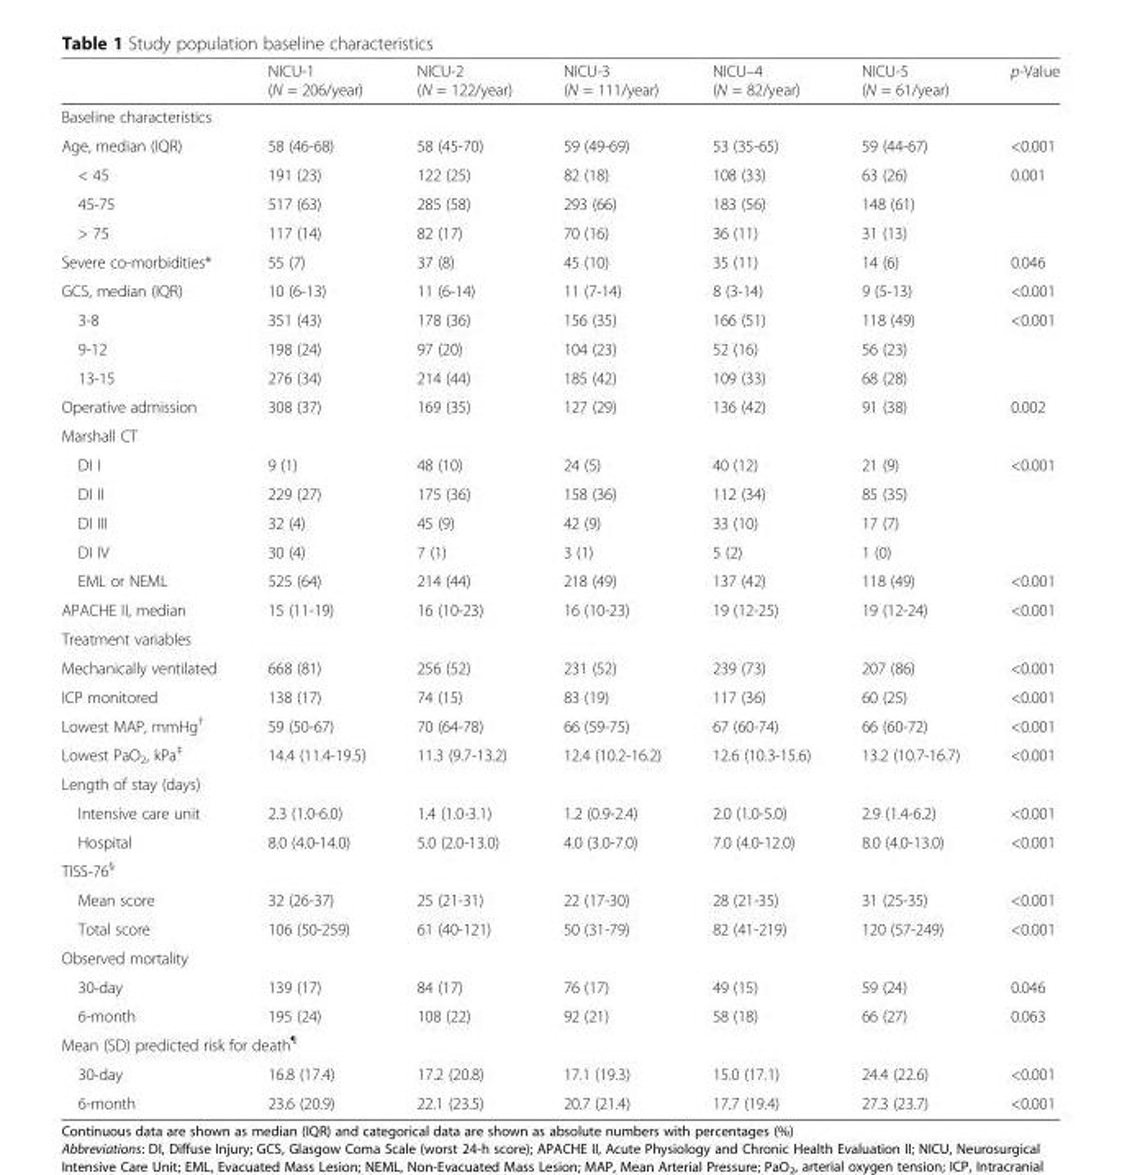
<table><thead><tr><td></td><td>NICU-1 (N = 206/year)</td><td>NICU-2 (N = 122/year)</td><td>NICU-3 (N = 111/year)</td><td>NICU–4 (N = 82/year)</td><td>NICU-5 (N = 61/year)</td><td>p-Value</td></tr></thead><tbody><tr><td colspan="7">Baseline characteristics</td></tr><tr><td>Age, median (IQR)</td><td>58 (46-68)</td><td>58 (45-70)</td><td>59 (49-69)</td><td>53 (35-65)</td><td>59 (44-67)</td><td>&lt;0.001</td></tr><tr><td>&lt; 45</td><td>191 (23)</td><td>122 (25)</td><td>82 (18)</td><td>108 (33)</td><td>63 (26)</td><td>0.001</td></tr><tr><td>45-75</td><td>517 (63)</td><td>285 (58)</td><td>293 (66)</td><td>183 (56)</td><td>148 (61)</td><td></td></tr><tr><td>&gt; 75</td><td>117 (14)</td><td>82 (17)</td><td>70 (16)</td><td>36 (11)</td><td>31 (13)</td><td></td></tr><tr><td>Severe co-morbidities*</td><td>55 (7)</td><td>37 (8)</td><td>45 (10)</td><td>35 (11)</td><td>14 (6)</td><td>0.046</td></tr><tr><td>GCS, median (IQR)</td><td>10 (6-13)</td><td>11 (6-14)</td><td>11 (7-14)</td><td>8 (3-14)</td><td>9 (5-13)</td><td>&lt;0.001</td></tr><tr><td>3-8</td><td>351 (43)</td><td>178 (36)</td><td>156 (35)</td><td>166 (51)</td><td>118 (49)</td><td>&lt;0.001</td></tr><tr><td>9-12</td><td>198 (24)</td><td>97 (20)</td><td>104 (23)</td><td>52 (16)</td><td>56 (23)</td><td></td></tr><tr><td>13-15</td><td>276 (34)</td><td>214 (44)</td><td>185 (42)</td><td>109 (33)</td><td>68 (28)</td><td></td></tr><tr><td>Operative admission</td><td>308 (37)</td><td>169 (35)</td><td>127 (29)</td><td>136 (42)</td><td>91 (38)</td><td>0.002</td></tr><tr><td colspan="7">Marshall CT</td></tr><tr><td>DI I</td><td>9 (1)</td><td>48 (10)</td><td>24 (5)</td><td>40 (12)</td><td>21 (9)</td><td>&lt;0.001</td></tr><tr><td>DI II</td><td>229 (27)</td><td>175 (36)</td><td>158 (36)</td><td>112 (34)</td><td>85 (35)</td><td></td></tr><tr><td>DI III</td><td>32 (4)</td><td>45 (9)</td><td>42 (9)</td><td>33 (10)</td><td>17 (7)</td><td></td></tr><tr><td>DI IV</td><td>30 (4)</td><td>7 (1)</td><td>3 (1)</td><td>5 (2)</td><td>1 (0)</td><td></td></tr><tr><td>EML or NEML</td><td>525 (64)</td><td>214 (44)</td><td>218 (49)</td><td>137 (42)</td><td>118 (49)</td><td>&lt;0.001</td></tr><tr><td>APACHE II, median</td><td>15 (11-19)</td><td>16 (10-23)</td><td>16 (10-23)</td><td>19 (12-25)</td><td>19 (12-24)</td><td>&lt;0.001</td></tr><tr><td colspan="7">Treatment variables</td></tr><tr><td>Mechanically ventilated</td><td>668 (81)</td><td>256 (52)</td><td>231 (52)</td><td>239 (73)</td><td>207 (86)</td><td>&lt;0.001</td></tr><tr><td>ICP monitored</td><td>138 (17)</td><td>74 (15)</td><td>83 (19)</td><td>117 (36)</td><td>60 (25)</td><td>&lt;0.001</td></tr><tr><td>Lowest MAP, mmHg<sup>†</sup></td><td>59 (50-67)</td><td>70 (64-78)</td><td>66 (59-75)</td><td>67 (60-74)</td><td>66 (60-72)</td><td>&lt;0.001</td></tr><tr><td>Lowest PaO<sub>2</sub>, kPa<sup>‡</sup></td><td>14.4 (11.4-19.5)</td><td>11.3 (9.7-13.2)</td><td>12.4 (10.2-16.2)</td><td>12.6 (10.3-15.6)</td><td>13.2 (10.7-16.7)</td><td>&lt;0.001</td></tr><tr><td colspan="7">Length of stay (days)</td></tr><tr><td>Intensive care unit</td><td>2.3 (1.0-6.0)</td><td>1.4 (1.0-3.1)</td><td>1.2 (0.9-2.4)</td><td>2.0 (1.0-5.0)</td><td>2.9 (1.4-6.2)</td><td>&lt;0.001</td></tr><tr><td>Hospital</td><td>8.0 (4.0-14.0)</td><td>5.0 (2.0-13.0)</td><td>4.0 (3.0-7.0)</td><td>7.0 (4.0-12.0)</td><td>8.0 (4.0-13.0)</td><td>&lt;0.001</td></tr><tr><td colspan="7">TISS-76<sup>§</sup></td></tr><tr><td>Mean score</td><td>32 (26-37)</td><td>25 (21-31)</td><td>22 (17-30)</td><td>28 (21-35)</td><td>31 (25-35)</td><td>&lt;0.001</td></tr><tr><td>Total score</td><td>106 (50-259)</td><td>61 (40-121)</td><td>50 (31-79)</td><td>82 (41-219)</td><td>120 (57-249)</td><td>&lt;0.001</td></tr><tr><td colspan="7">Observed mortality</td></tr><tr><td>30-day</td><td>139 (17)</td><td>84 (17)</td><td>76 (17)</td><td>49 (15)</td><td>59 (24)</td><td>0.046</td></tr><tr><td>6-month</td><td>195 (24)</td><td>108 (22)</td><td>92 (21)</td><td>58 (18)</td><td>66 (27)</td><td>0.063</td></tr><tr><td colspan="7">Mean (SD) predicted risk for death<sup>¶</sup></td></tr><tr><td>30-day</td><td>16.8 (17.4)</td><td>17.2 (20.8)</td><td>17.1 (19.3)</td><td>15.0 (17.1)</td><td>24.4 (22.6)</td><td>&lt;0.001</td></tr><tr><td>6-month</td><td>23.6 (20.9)</td><td>22.1 (23.5)</td><td>20.7 (21.4)</td><td>17.7 (19.4)</td><td>27.3 (23.7)</td><td>&lt;0.001</td></tr></tbody></table>